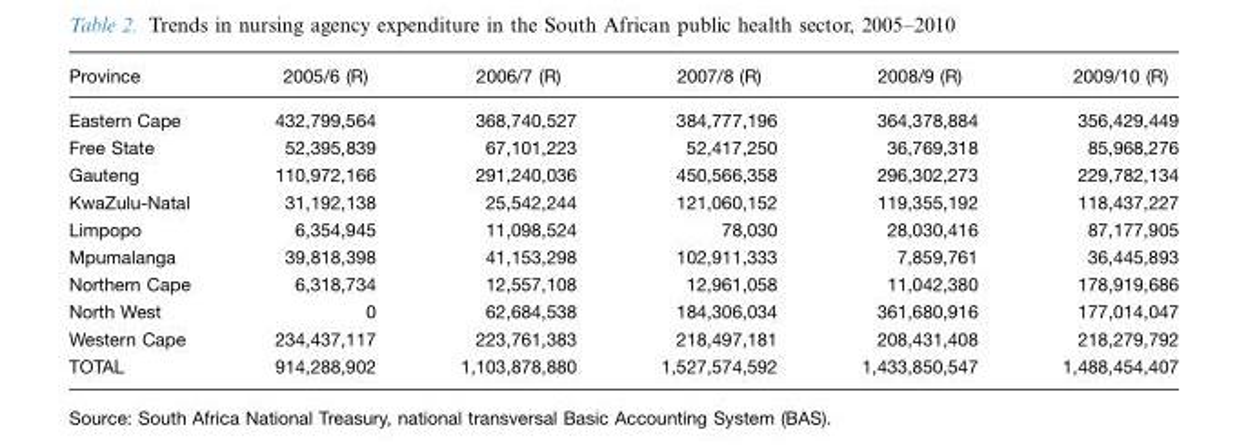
<table><thead><tr><td>Province</td><td>2005/6 (R)</td><td>2006/7 (R)</td><td>2007/8 (R)</td><td>2008/9 (R)</td><td>2009/10 (R)</td></tr></thead><tbody><tr><td>Eastern Cape</td><td>432,799,564</td><td>368,740,527</td><td>384,777,196</td><td>364,378,884</td><td>356,429,449</td></tr><tr><td>Free State</td><td>52,395,839</td><td>67,101,223</td><td>52,417,250</td><td>36,769,318</td><td>85,968,276</td></tr><tr><td>Gauteng</td><td>110,972,166</td><td>291,240,036</td><td>450,566,358</td><td>296,302,273</td><td>229,782,134</td></tr><tr><td>KwaZulu-Natal</td><td>31,192,138</td><td>25,542,244</td><td>121,060,152</td><td>119,355,192</td><td>118,437,227</td></tr><tr><td>Limpopo</td><td>6,354,945</td><td>11,098,524</td><td>78,030</td><td>28,030,416</td><td>87,177,905</td></tr><tr><td>Mpumalanga</td><td>39,818,398</td><td>41,153,298</td><td>102,911,333</td><td>7,859,761</td><td>36,445,893</td></tr><tr><td>Northern Cape</td><td>6,318,734</td><td>12,557,108</td><td>12,961,058</td><td>11,042,380</td><td>178,919,686</td></tr><tr><td>North West</td><td>0</td><td>62,684,538</td><td>184,306,034</td><td>361,680,916</td><td>177,014,047</td></tr><tr><td>Western Cape</td><td>234,437,117</td><td>223,761,383</td><td>218,497,181</td><td>208,431,408</td><td>218,279,792</td></tr><tr><td>TOTAL</td><td>914,288,902</td><td>1,103,878,880</td><td>1,527,574,592</td><td>1,433,850,547</td><td>1,488,454,407</td></tr></tbody></table>